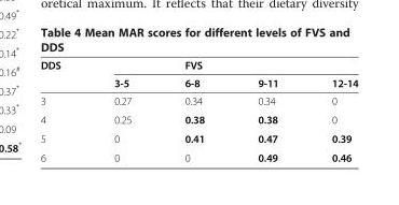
<table><thead><tr><td rowspan="2">DDS DDS</td><td rowspan="2">3-5</td><td rowspan="2">FVS 6-8</td><td rowspan="2">9-11</td><td rowspan="2">12-14</td></tr><tr></tr></thead><tbody><tr><td>3</td><td>0.27</td><td>0.34</td><td>0.34</td><td>0</td></tr><tr><td>4</td><td>0.25</td><td>0.38</td><td>0.38</td><td>0</td></tr><tr><td>5</td><td>0</td><td>0.41</td><td>0.47</td><td>0.39</td></tr><tr><td>6</td><td>0</td><td>0</td><td>0.49</td><td>0.46</td></tr></tbody></table>